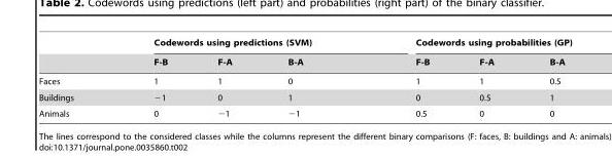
<table><thead><tr><td rowspan="2"></td><td colspan="3">Codewords using predictions (SVM)</td><td colspan="3">Codewords using probabilities (GP)</td></tr><tr><td>F-B</td><td>F-A</td><td>B-A</td><td>F-B</td><td>F-A</td><td>B-A</td></tr></thead><tbody><tr><td>Faces</td><td>1</td><td>1</td><td>0</td><td>1</td><td>1</td><td>0.5</td></tr><tr><td>Buildings</td><td>−1</td><td>0</td><td>1</td><td>0</td><td>0.5</td><td>1</td></tr><tr><td>Animals</td><td>0</td><td>−1</td><td>−1</td><td>0.5</td><td>0</td><td>0</td></tr></tbody></table>